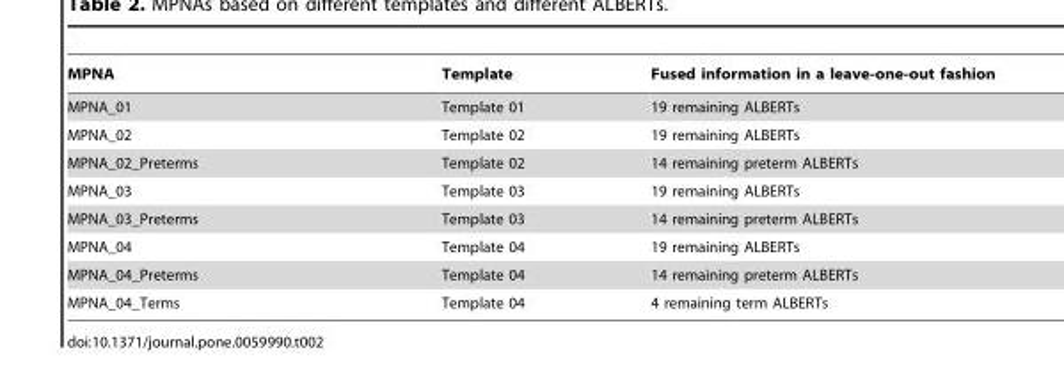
<table><thead><tr><td>MPNA</td><td>Template</td><td>Fused information in a leave-one-out fashion</td></tr></thead><tbody><tr><td>MPNA_01</td><td>Template 01</td><td>19 remaining ALBERTs</td></tr><tr><td>MPNA_02</td><td>Template 02</td><td>19 remaining ALBERTs</td></tr><tr><td>MPNA_02_Preterms</td><td>Template 02</td><td>14 remaining preterm ALBERTs</td></tr><tr><td>MPNA_03</td><td>Template 03</td><td>19 remaining ALBERTs</td></tr><tr><td>MPNA_03_Preterms</td><td>Template 03</td><td>14 remaining preterm ALBERTs</td></tr><tr><td>MPNA_04</td><td>Template 04</td><td>19 remaining ALBERTs</td></tr><tr><td>MPNA_04_Preterms</td><td>Template 04</td><td>14 remaining preterm ALBERTs</td></tr><tr><td>MPNA_04_Terms</td><td>Template 04</td><td>4 remaining term ALBERTs</td></tr></tbody></table>